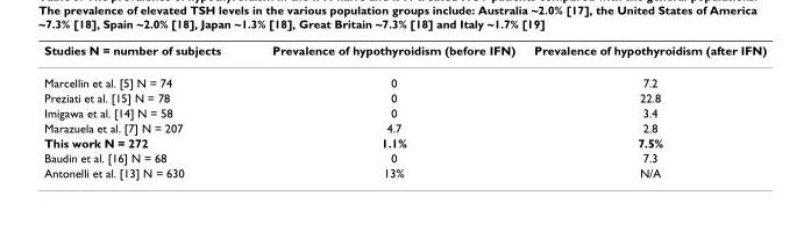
<table><thead><tr><td>Studies N = number of subjects</td><td>Prevalence of hypothyroidism (before IFN)</td><td>Prevalence of hypothyroidism (after IFN)</td></tr></thead><tbody><tr><td>Marcellin et al. [5] N = 74</td><td>0</td><td>7.2</td></tr><tr><td>Preziati et al. [15] N = 78</td><td>0</td><td>22.8</td></tr><tr><td>Imigawa et al. [14] N = 58</td><td>0</td><td>3.4</td></tr><tr><td>Marazuela et al. [7] N = 207</td><td>4.7</td><td>2.8</td></tr><tr><td>This work N = 272</td><td>1.1%</td><td>7.5%</td></tr><tr><td>Baudin et al. [16] N = 68</td><td>0</td><td>7.3</td></tr><tr><td>Antonelli et al. [13] N = 630</td><td>13%</td><td>N/A</td></tr></tbody></table>